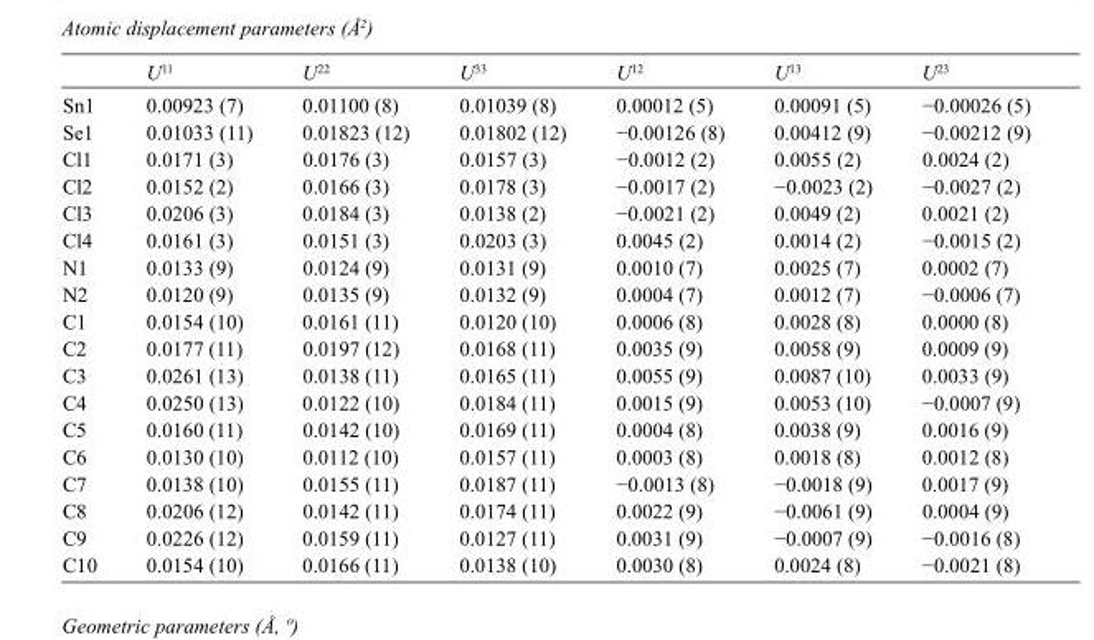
<table><thead><tr><td></td><td>U<sup>11</sup></td><td>U<sup>22</sup></td><td>U<sup>33</sup></td><td>U<sup>12</sup></td><td>U<sup>13</sup></td><td>U<sup>23</sup></td></tr></thead><tbody><tr><td>Sn1</td><td>0.00923 (7)</td><td>0.01100 (8)</td><td>0.01039 (8)</td><td>0.00012 (5)</td><td>0.00091 (5)</td><td>−0.00026 (5)</td></tr><tr><td>Se1</td><td>0.01033 (11)</td><td>0.01823 (12)</td><td>0.01802 (12)</td><td>−0.00126 (8)</td><td>0.00412 (9)</td><td>−0.00212 (9)</td></tr><tr><td>Cl1</td><td>0.0171 (3)</td><td>0.0176 (3)</td><td>0.0157 (3)</td><td>−0.0012 (2)</td><td>0.0055 (2)</td><td>0.0024 (2)</td></tr><tr><td>Cl2</td><td>0.0152 (2)</td><td>0.0166 (3)</td><td>0.0178 (3)</td><td>−0.0017 (2)</td><td>−0.0023 (2)</td><td>−0.0027 (2)</td></tr><tr><td>Cl3</td><td>0.0206 (3)</td><td>0.0184 (3)</td><td>0.0138 (2)</td><td>−0.0021 (2)</td><td>0.0049 (2)</td><td>0.0021 (2)</td></tr><tr><td>Cl4</td><td>0.0161 (3)</td><td>0.0151 (3)</td><td>0.0203 (3)</td><td>0.0045 (2)</td><td>0.0014 (2)</td><td>−0.0015 (2)</td></tr><tr><td>N1</td><td>0.0133 (9)</td><td>0.0124 (9)</td><td>0.0131 (9)</td><td>0.0010 (7)</td><td>0.0025 (7)</td><td>0.0002 (7)</td></tr><tr><td>N2</td><td>0.0120 (9)</td><td>0.0135 (9)</td><td>0.0132 (9)</td><td>0.0004 (7)</td><td>0.0012 (7)</td><td>−0.0006 (7)</td></tr><tr><td>C1</td><td>0.0154 (10)</td><td>0.0161 (11)</td><td>0.0120 (10)</td><td>0.0006 (8)</td><td>0.0028 (8)</td><td>0.0000 (8)</td></tr><tr><td>C2</td><td>0.0177 (11)</td><td>0.0197 (12)</td><td>0.0168 (11)</td><td>0.0035 (9)</td><td>0.0058 (9)</td><td>0.0009 (9)</td></tr><tr><td>C3</td><td>0.0261 (13)</td><td>0.0138 (11)</td><td>0.0165 (11)</td><td>0.0055 (9)</td><td>0.0087 (10)</td><td>0.0033 (9)</td></tr><tr><td>C4</td><td>0.0250 (13)</td><td>0.0122 (10)</td><td>0.0184 (11)</td><td>0.0015 (9)</td><td>0.0053 (10)</td><td>−0.0007 (9)</td></tr><tr><td>C5</td><td>0.0160 (11)</td><td>0.0142 (10)</td><td>0.0169 (11)</td><td>0.0004 (8)</td><td>0.0038 (9)</td><td>0.0016 (9)</td></tr><tr><td>C6</td><td>0.0130 (10)</td><td>0.0112 (10)</td><td>0.0157 (11)</td><td>0.0003 (8)</td><td>0.0018 (8)</td><td>0.0012 (8)</td></tr><tr><td>C7</td><td>0.0138 (10)</td><td>0.0155 (11)</td><td>0.0187 (11)</td><td>−0.0013 (8)</td><td>−0.0018 (9)</td><td>0.0017 (9)</td></tr><tr><td>C8</td><td>0.0206 (12)</td><td>0.0142 (11)</td><td>0.0174 (11)</td><td>0.0022 (9)</td><td>−0.0061 (9)</td><td>0.0004 (9)</td></tr><tr><td>C9</td><td>0.0226 (12)</td><td>0.0159 (11)</td><td>0.0127 (11)</td><td>0.0031 (9)</td><td>−0.0007 (9)</td><td>−0.0016 (8)</td></tr><tr><td>C10</td><td>0.0154 (10)</td><td>0.0166 (11)</td><td>0.0138 (10)</td><td>0.0030 (8)</td><td>0.0024 (8)</td><td>−0.0021 (8)</td></tr></tbody></table>